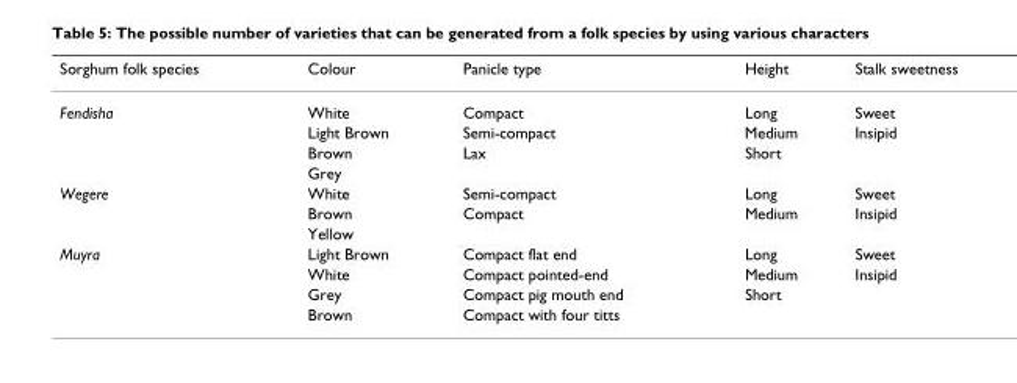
<table><thead><tr><td>Sorghum folk species</td><td>Colour</td><td>Panicle type</td><td>Height</td><td>Stalk sweetness</td></tr></thead><tbody><tr><td rowspan="4">Fendisha</td><td>White</td><td>Compact</td><td>Long</td><td>Sweet</td></tr><tr><td>Light Brown</td><td>Semi-compact</td><td>Medium</td><td>Insipid</td></tr><tr><td>Brown</td><td>Lax</td><td>Short</td><td></td></tr><tr><td>Grey</td><td></td><td></td><td></td></tr><tr><td rowspan="3">Wegere</td><td>White</td><td>Semi-compact</td><td>Long</td><td>Sweet</td></tr><tr><td>Brown</td><td>Compact</td><td>Medium</td><td>Insipid</td></tr><tr><td>Yellow</td><td></td><td></td><td></td></tr><tr><td rowspan="4">Muyra</td><td>Light Brown</td><td>Compact flat end</td><td>Long</td><td>Sweet</td></tr><tr><td>White</td><td>Compact pointed-end</td><td>Medium</td><td>Insipid</td></tr><tr><td>Grey</td><td>Compact pig mouth end</td><td>Short</td><td></td></tr><tr><td>Brown</td><td>Compact with four titts</td><td></td><td></td></tr></tbody></table>